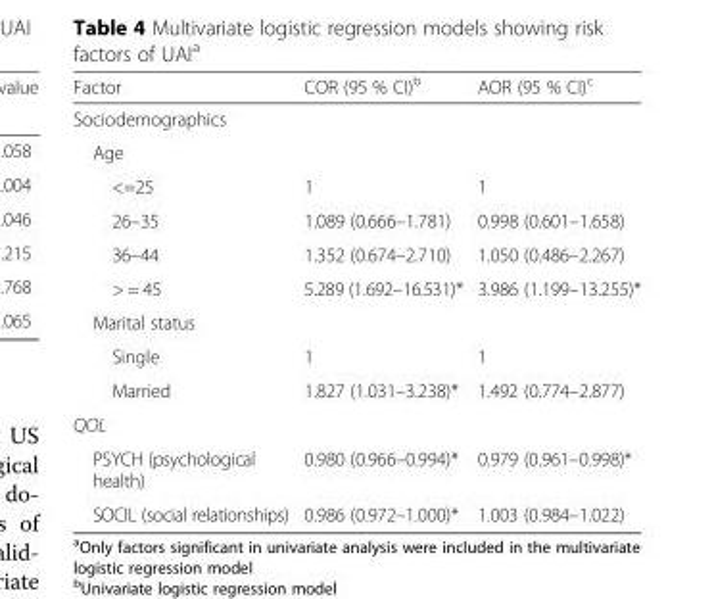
<table><thead><tr><td>Factor</td><td>COR (95 % CI)<sup>b</sup></td><td>AOR (95 % CI)<sup>c</sup></td></tr></thead><tbody><tr><td colspan="3">Sociodemographics</td></tr><tr><td colspan="3">Age</td></tr><tr><td>&lt;=25</td><td>1</td><td>1</td></tr><tr><td>26–35</td><td>1.089 (0.666–1.781)</td><td>0.998 (0.601–1.658)</td></tr><tr><td>36–44</td><td>1.352 (0.674–2.710)</td><td>1.050 (0.486–2.267)</td></tr><tr><td>&gt; = 45</td><td>5.289 (1.692–16.531)*</td><td>3.986 (1.199–13.255)*</td></tr><tr><td colspan="3">Marital status</td></tr><tr><td>Single</td><td>1</td><td>1</td></tr><tr><td>Married</td><td>1.827 (1.031–3.238)*</td><td>1.492 (0.774–2.877)</td></tr><tr><td colspan="3">QOL</td></tr><tr><td>PSYCH (psychological health)</td><td>0.980 (0.966–0.994)*</td><td>0.979 (0.961–0.998)*</td></tr><tr><td>SOCIL (social relationships)</td><td>0.986 (0.972–1.000)*</td><td>1.003 (0.984–1.022)</td></tr></tbody></table>